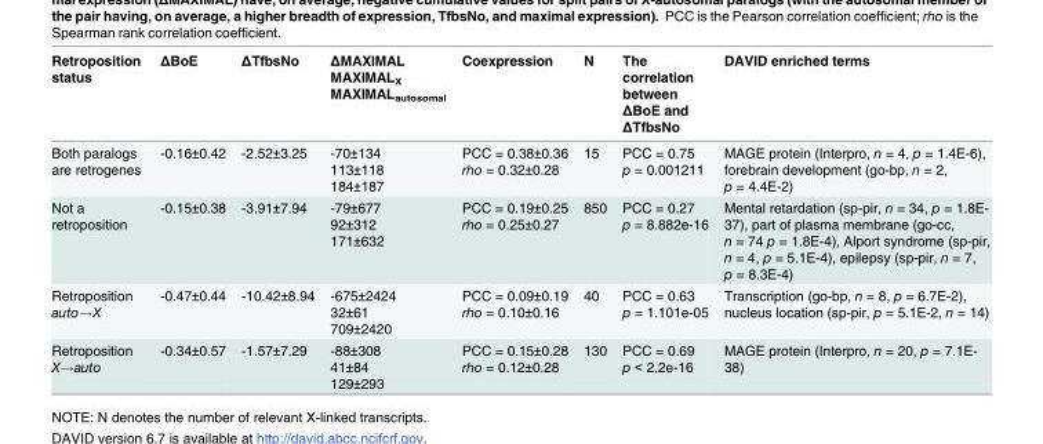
<table><thead><tr><td>Retroposition status</td><td>ΔBoE</td><td>ΔTfbsNo</td><td>ΔMAXIMAL MAXIMAL<sub>X</sub> MAXIMAL<sub>autosomal</sub></td><td>Coexpression</td><td>N</td><td>The correlation between ΔBoE and ΔTfbsNo</td><td>DAVID enriched terms</td></tr></thead><tbody><tr><td>Both paralogs are retrogenes</td><td>-0.16±0.42</td><td>-2.52±3.25</td><td>-70±134 113±118 184±187</td><td>PCC = 0.38±0.36 rho = 0.32±0.28</td><td>15</td><td>PCC = 0.75 p = 0.001211</td><td>MAGE protein (Interpro, n = 4, p = 1.4E-6), forebrain development (go-bp, n = 2, p = 4.4E-2)</td></tr><tr><td>Not a retroposition</td><td>-0.15±0.38</td><td>-3.91±7.94</td><td>-79±677 92±312 171±632</td><td>PCC = 0.19±0.25 rho = 0.25±0.27</td><td>850</td><td>PCC = 0.27 p = 8.882e-16</td><td>Mental retardation (sp-pir, n = 34, p = 1.8E- 37), part of plasma membrane (go-cc, n = 74 p = 1.8E-4), Alport syndrome (sp-pir, n = 4, p = 5.1E-4), epilepsy (sp-pir, n = 7, p = 8.3E-4)</td></tr><tr><td>Retroposition auto→X</td><td>-0.47±0.44</td><td>-10.42±8.94</td><td>-675±2424 32±61 709±2420</td><td>PCC = 0.09±0.19 rho = 0.10±0.16</td><td>40</td><td>PCC = 0.63 p = 1.101e-05</td><td>Transcription (go-bp, n = 8, p = 6.7E-2), nucleus location (sp-pir, p = 5.1E-2, n = 14)</td></tr><tr><td>Retroposition X→auto</td><td>-0.34±0.57</td><td>-1.57±7.29</td><td>-88±308 41±84 129±293</td><td>PCC = 0.15±0.28 rho = 0.12±0.28</td><td>130</td><td>PCC = 0.69 p &lt; 2.2e-16</td><td>MAGE protein (Interpro, n = 20, p = 7.1E- 38)</td></tr></tbody></table>